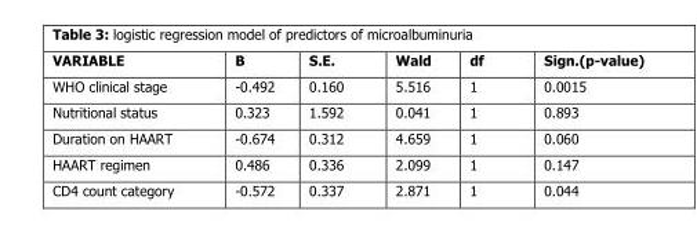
<table><thead><tr><td>VARIABLE</td><td>B</td><td>S.E.</td><td>Wald</td><td>df</td><td>Sign.(p-value)</td></tr></thead><tbody><tr><td>WHO clinical stage</td><td>-0.492</td><td>0.160</td><td>5.516</td><td>1</td><td>0.0015</td></tr><tr><td>Nutritional status</td><td>0.323</td><td>1.592</td><td>0.041</td><td>1</td><td>0.893</td></tr><tr><td>Duration on HAART</td><td>-0.674</td><td>0.312</td><td>4.659</td><td>1</td><td>0.060</td></tr><tr><td>HAART regimen</td><td>0.486</td><td>0.336</td><td>2.099</td><td>1</td><td>0.147</td></tr><tr><td>CD4 count category</td><td>-0.572</td><td>0.337</td><td>2.871</td><td>1</td><td>0.044</td></tr></tbody></table>